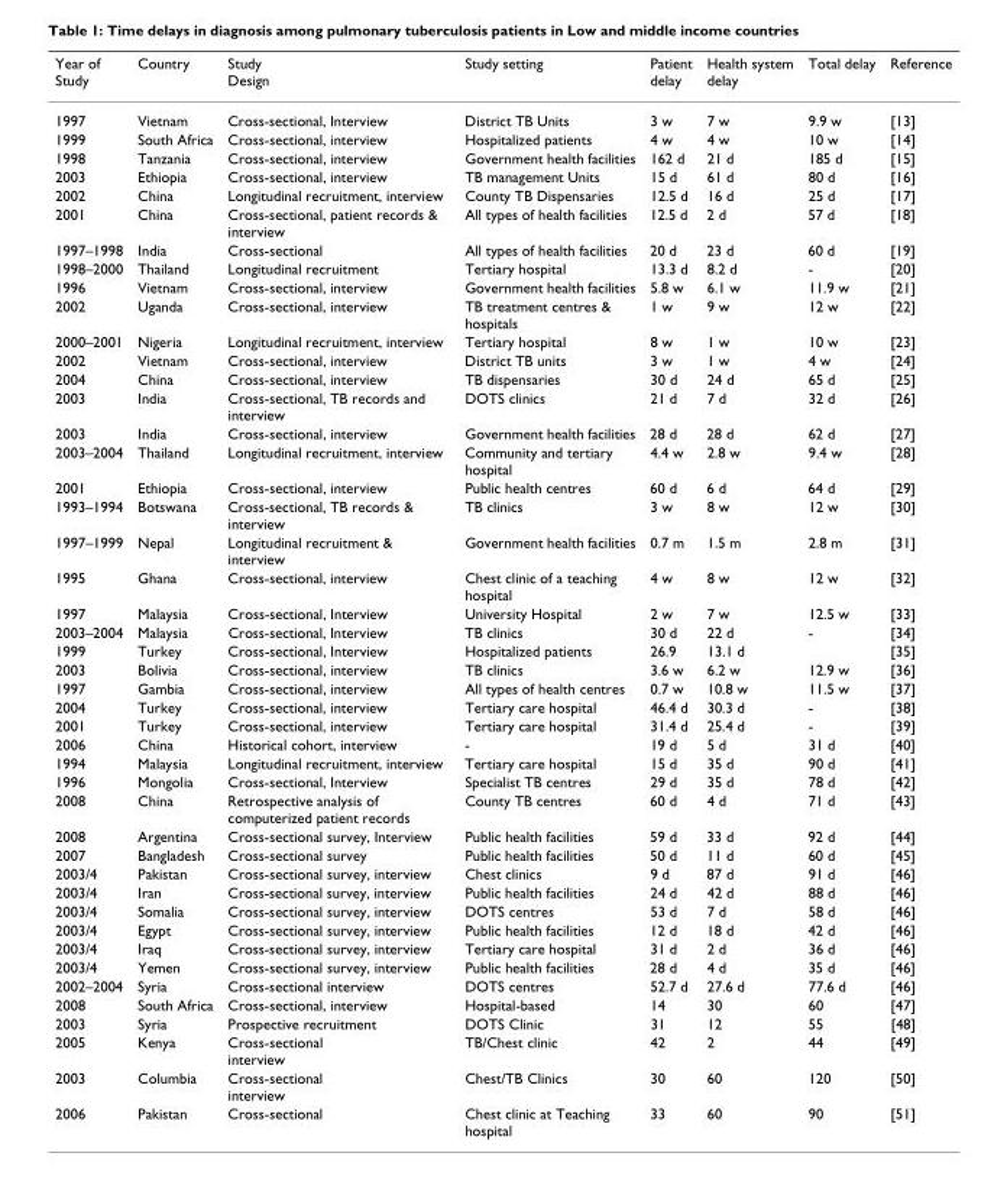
<table><thead><tr><td>Year of Study</td><td>Country</td><td>Study Design</td><td>Study setting</td><td>Patient delay</td><td>Health system delay</td><td>Total delay</td><td>Reference</td></tr></thead><tbody><tr><td>1997</td><td>Vietnam</td><td>Cross-sectional, Interview</td><td>District TB Units</td><td>3 w</td><td>7 w</td><td>9.9 w</td><td>[13]</td></tr><tr><td>1999</td><td>South Africa</td><td>Cross-sectional, interview</td><td>Hospitalized patients</td><td>4 w</td><td>4 w</td><td>10 w</td><td>[14]</td></tr><tr><td>1998</td><td>Tanzania</td><td>Cross-sectional, interview</td><td>Government health facilities</td><td>162 d</td><td>21 d</td><td>185 d</td><td>[15]</td></tr><tr><td>2003</td><td>Ethiopia</td><td>Cross-sectional, interview</td><td>TB management Units</td><td>15 d</td><td>61 d</td><td>80 d</td><td>[16]</td></tr><tr><td>2002</td><td>China</td><td>Longitudinal recruitment, interview</td><td>County TB Dispensaries</td><td>12.5 d</td><td>16 d</td><td>25 d</td><td>[17]</td></tr><tr><td>2001</td><td>China</td><td>Cross-sectional, patient records &amp; interview</td><td>All types of health facilities</td><td>12.5 d</td><td>2 d</td><td>57 d</td><td>[18]</td></tr><tr><td>1997–1998</td><td>India</td><td>Cross-sectional</td><td>All types of health facilities</td><td>20 d</td><td>23 d</td><td>60 d</td><td>[19]</td></tr><tr><td>1998–2000</td><td>Thailand</td><td>Longitudinal recruitment</td><td>Tertiary hospital</td><td>13.3 d</td><td>8.2 d</td><td>-</td><td>[20]</td></tr><tr><td>1996</td><td>Vietnam</td><td>Cross-sectional, interview</td><td>Government health facilities</td><td>5.8 w</td><td>6.1 w</td><td>11.9 w</td><td>[21]</td></tr><tr><td>2002</td><td>Uganda</td><td>Cross-sectional, interview</td><td>TB treatment centres &amp; hospitals</td><td>1 w</td><td>9 w</td><td>12 w</td><td>[22]</td></tr><tr><td>2000–2001</td><td>Nigeria</td><td>Longitudinal recruitment, interview</td><td>Tertiary hospital</td><td>8 w</td><td>1 w</td><td>10 w</td><td>[23]</td></tr><tr><td>2002</td><td>Vietnam</td><td>Cross-sectional, interview</td><td>District TB units</td><td>3 w</td><td>1 w</td><td>4 w</td><td>[24]</td></tr><tr><td>2004</td><td>China</td><td>Cross-sectional, interview</td><td>TB dispensaries</td><td>30 d</td><td>24 d</td><td>65 d</td><td>[25]</td></tr><tr><td>2003</td><td>India</td><td>Cross-sectional, TB records and interview</td><td>DOTS clinics</td><td>21 d</td><td>7 d</td><td>32 d</td><td>[26]</td></tr><tr><td>2003</td><td>India</td><td>Cross-sectional, interview</td><td>Government health facilities</td><td>28 d</td><td>28 d</td><td>62 d</td><td>[27]</td></tr><tr><td>2003–2004</td><td>Thailand</td><td>Longitudinal recruitment, interview</td><td>Community and tertiary hospital</td><td>4.4 w</td><td>2.8 w</td><td>9.4 w</td><td>[28]</td></tr><tr><td>2001</td><td>Ethiopia</td><td>Cross-sectional, interview</td><td>Public health centres</td><td>60 d</td><td>6 d</td><td>64 d</td><td>[29]</td></tr><tr><td>1993–1994</td><td>Botswana</td><td>Cross-sectional, TB records &amp; interview</td><td>TB clinics</td><td>3 w</td><td>8 w</td><td>12 w</td><td>[30]</td></tr><tr><td>1997–1999</td><td>Nepal</td><td>Longitudinal recruitment &amp; interview</td><td>Government health facilities</td><td>0.7 m</td><td>1.5 m</td><td>2.8 m</td><td>[31]</td></tr><tr><td>1995</td><td>Ghana</td><td>Cross-sectional, interview</td><td>Chest clinic of a teaching hospital</td><td>4 w</td><td>8 w</td><td>12 w</td><td>[32]</td></tr><tr><td>1997</td><td>Malaysia</td><td>Cross-sectional, Interview</td><td>University Hospital</td><td>2 w</td><td>7 w</td><td>12.5 w</td><td>[33]</td></tr><tr><td>2003–2004</td><td>Malaysia</td><td>Cross-sectional, Interview</td><td>TB clinics</td><td>30 d</td><td>22 d</td><td>-</td><td>[34]</td></tr><tr><td>1999</td><td>Turkey</td><td>Cross-sectional, Interview</td><td>Hospitalized patients</td><td>26.9</td><td>13.1 d</td><td></td><td>[35]</td></tr><tr><td>2003</td><td>Bolivia</td><td>Cross-sectional, interview</td><td>TB clinics</td><td>3.6 w</td><td>6.2 w</td><td>12.9 w</td><td>[36]</td></tr><tr><td>1997</td><td>Gambia</td><td>Cross-sectional, interview</td><td>All types of health centres</td><td>0.7 w</td><td>10.8 w</td><td>11.5 w</td><td>[37]</td></tr><tr><td>2004</td><td>Turkey</td><td>Cross-sectional, interview</td><td>Tertiary care hospital</td><td>46.4 d</td><td>30.3 d</td><td>-</td><td>[38]</td></tr><tr><td>2001</td><td>Turkey</td><td>Cross-sectional, interview</td><td>Tertiary care hospital</td><td>31.4 d</td><td>25.4 d</td><td>-</td><td>[39]</td></tr><tr><td>2006</td><td>China</td><td>Historical cohort, interview</td><td>-</td><td>19 d</td><td>5 d</td><td>31 d</td><td>[40]</td></tr><tr><td>1994</td><td>Malaysia</td><td>Longitudinal recruitment, interview</td><td>Tertiary care hospital</td><td>15 d</td><td>35 d</td><td>90 d</td><td>[41]</td></tr><tr><td>1996</td><td>Mongolia</td><td>Cross-sectional, Interview</td><td>Specialist TB centres</td><td>29 d</td><td>35 d</td><td>78 d</td><td>[42]</td></tr><tr><td>2008</td><td>China</td><td>Retrospective analysis of computerized patient records</td><td>County TB centres</td><td>60 d</td><td>4 d</td><td>71 d</td><td>[43]</td></tr><tr><td>2008</td><td>Argentina</td><td>Cross-sectional survey, Interview</td><td>Public health facilities</td><td>59 d</td><td>33 d</td><td>92 d</td><td>[44]</td></tr><tr><td>2007</td><td>Bangladesh</td><td>Cross-sectional survey</td><td>Public health facilities</td><td>50 d</td><td>11 d</td><td>60 d</td><td>[45]</td></tr><tr><td>2003/4</td><td>Pakistan</td><td>Cross-sectional survey, interview</td><td>Chest clinics</td><td>9 d</td><td>87 d</td><td>91 d</td><td>[46]</td></tr><tr><td>2003/4</td><td>Iran</td><td>Cross-sectional survey, interview</td><td>Public health facilities</td><td>24 d</td><td>42 d</td><td>88 d</td><td>[46]</td></tr><tr><td>2003/4</td><td>Somalia</td><td>Cross-sectional survey, interview</td><td>DOTS centres</td><td>53 d</td><td>7 d</td><td>58 d</td><td>[46]</td></tr><tr><td>2003/4</td><td>Egypt</td><td>Cross-sectional survey, interview</td><td>Public health facilities</td><td>12 d</td><td>18 d</td><td>42 d</td><td>[46]</td></tr><tr><td>2003/4</td><td>Iraq</td><td>Cross-sectional survey, interview</td><td>Tertiary care hospital</td><td>31 d</td><td>2 d</td><td>36 d</td><td>[46]</td></tr><tr><td>2003/4</td><td>Yemen</td><td>Cross-sectional survey, interview</td><td>Public health facilities</td><td>28 d</td><td>4 d</td><td>35 d</td><td>[46]</td></tr><tr><td>2002–2004</td><td>Syria</td><td>Cross-sectional interview</td><td>DOTS centres</td><td>52.7 d</td><td>27.6 d</td><td>77.6 d</td><td>[46]</td></tr><tr><td>2008</td><td>South Africa</td><td>Cross-sectional, interview</td><td>Hospital-based</td><td>14</td><td>30</td><td>60</td><td>[47]</td></tr><tr><td>2003</td><td>Syria</td><td>Prospective recruitment</td><td>DOTS Clinic</td><td>31</td><td>12</td><td>55</td><td>[48]</td></tr><tr><td>2005</td><td>Kenya</td><td>Cross-sectional interview</td><td>TB/Chest clinic</td><td>42</td><td>2</td><td>44</td><td>[49]</td></tr><tr><td>2003</td><td>Columbia</td><td>Cross-sectional interview</td><td>Chest/TB Clinics</td><td>30</td><td>60</td><td>120</td><td>[50]</td></tr><tr><td>2006</td><td>Pakistan</td><td>Cross-sectional</td><td>Chest clinic at Teaching hospital</td><td>33</td><td>60</td><td>90</td><td>[51]</td></tr></tbody></table>